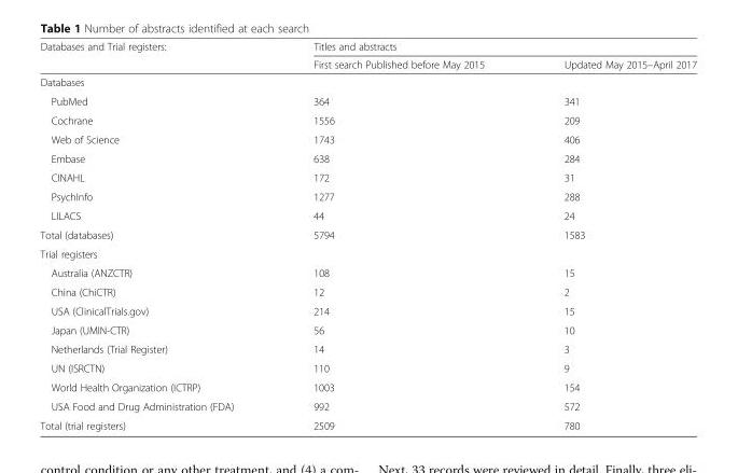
<table><thead><tr><td rowspan="2">Databases and Trial registers:</td><td colspan="2">Titles and abstracts</td></tr><tr><td>First search Published before May 2015</td><td>Updated May 2015–April 2017</td></tr></thead><tbody><tr><td colspan="3">Databases</td></tr><tr><td>PubMed</td><td>364</td><td>341</td></tr><tr><td>Cochrane</td><td>1556</td><td>209</td></tr><tr><td>Web of Science</td><td>1743</td><td>406</td></tr><tr><td>Embase</td><td>638</td><td>284</td></tr><tr><td>CINAHL</td><td>172</td><td>31</td></tr><tr><td>PsychInfo</td><td>1277</td><td>288</td></tr><tr><td>LILACS</td><td>44</td><td>24</td></tr><tr><td>Total (databases)</td><td>5794</td><td>1583</td></tr><tr><td colspan="3">Trial registers</td></tr><tr><td>Australia (ANZCTR)</td><td>108</td><td>15</td></tr><tr><td>China (ChiCTR)</td><td>12</td><td>2</td></tr><tr><td>USA (ClinicalTrials.gov)</td><td>214</td><td>15</td></tr><tr><td>Japan (UMIN-CTR)</td><td>56</td><td>10</td></tr><tr><td>Netherlands (Trial Register)</td><td>14</td><td>3</td></tr><tr><td>UN (ISRCTN)</td><td>110</td><td>9</td></tr><tr><td>World Health Organization (ICTRP)</td><td>1003</td><td>154</td></tr><tr><td>USA Food and Drug Administration (FDA)</td><td>992</td><td>572</td></tr><tr><td>Total (trial registers)</td><td>2509</td><td>780</td></tr></tbody></table>